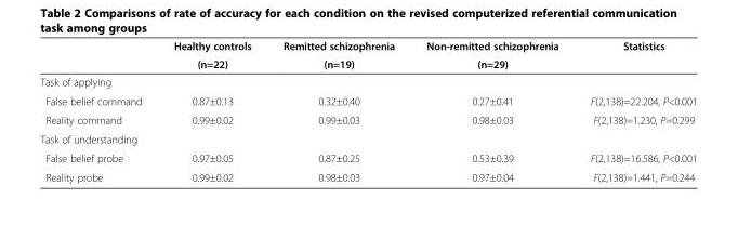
<table><thead><tr><td rowspan="2"></td><td rowspan="2">Healthy controls (n=22)</td><td rowspan="2">Remitted schizophrenia (n=19)</td><td rowspan="2">Non-remitted schizophrenia (n=29)</td><td rowspan="2">Statistics</td></tr><tr></tr></thead><tbody><tr><td colspan="5">Task of applying</td></tr><tr><td>False belief command</td><td>0.87±0.13</td><td>0.32±0.40</td><td>0.27±0.41</td><td>F(2,138)=22.204, P&lt;0.001</td></tr><tr><td>Reality command</td><td>0.99±0.02</td><td>0.99±0.03</td><td>0.98±0.03</td><td>F(2,138)=1.230, P=0.299</td></tr><tr><td colspan="5">Task of understanding</td></tr><tr><td>False belief probe</td><td>0.97±0.05</td><td>0.87±0.25</td><td>0.53±0.39</td><td>F(2,138)=16.586, P&lt;0.001</td></tr><tr><td>Reality probe</td><td>0.99±0.02</td><td>0.98±0.03</td><td>0.97±0.04</td><td>F(2,138)=1.441, P=0.244</td></tr></tbody></table>